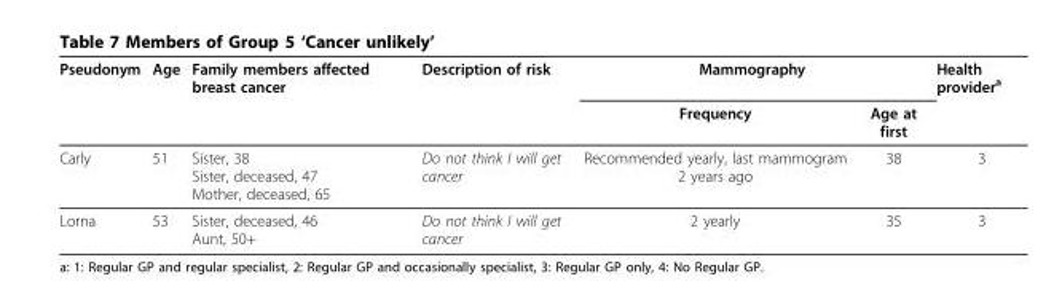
<table><thead><tr><td rowspan="2">Pseudonym</td><td rowspan="2">Age</td><td rowspan="2">Family members affected breast cancer</td><td rowspan="2">Description of risk</td><td colspan="2">Mammography</td><td rowspan="2">Health provider<sup>a</sup></td></tr><tr><td>Frequency</td><td>Age at first</td></tr></thead><tbody><tr><td>Carly</td><td>51</td><td>Sister, 38 Sister, deceased, 47 Mother, deceased, 65</td><td>Do not think I will get cancer</td><td>Recommended yearly, last mammogram 2 years ago</td><td>38</td><td>3</td></tr><tr><td>Lorna</td><td>53</td><td>Sister, deceased, 46 Aunt, 50+</td><td>Do not think I will get cancer</td><td>2 yearly</td><td>35</td><td>3</td></tr></tbody></table>